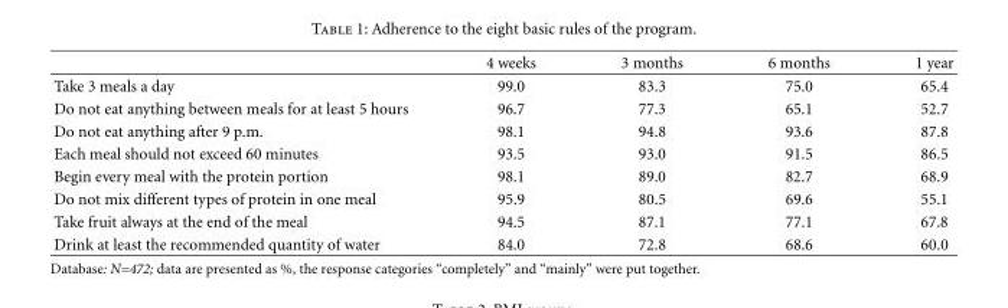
<table><thead><tr><td></td><td>4 weeks</td><td>3 months</td><td>6 months</td><td>1 year</td></tr></thead><tbody><tr><td>Take 3 meals a day</td><td>99.0</td><td>83.3</td><td>75.0</td><td>65.4</td></tr><tr><td>Do not eat anything between meals for at least 5 hours</td><td>96.7</td><td>77.3</td><td>65.1</td><td>52.7</td></tr><tr><td>Do not eat anything after 9 p.m.</td><td>98.1</td><td>94.8</td><td>93.6</td><td>87.8</td></tr><tr><td>Each meal should not exceed 60 minutes</td><td>93.5</td><td>93.0</td><td>91.5</td><td>86.5</td></tr><tr><td>Begin every meal with the protein portion</td><td>98.1</td><td>89.0</td><td>82.7</td><td>68.9</td></tr><tr><td>Do not mix different types of protein in one meal</td><td>95.9</td><td>80.5</td><td>69.6</td><td>55.1</td></tr><tr><td>Take fruit always at the end of the meal</td><td>94.5</td><td>87.1</td><td>77.1</td><td>67.8</td></tr><tr><td>Drink at least the recommended quantity of water</td><td>84.0</td><td>72.8</td><td>68.6</td><td>60.0</td></tr></tbody></table>